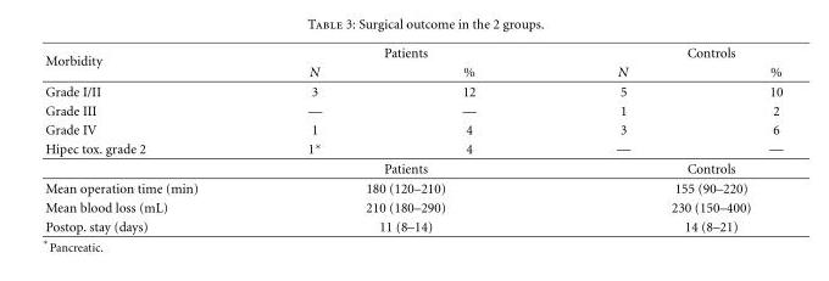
<table><thead><tr><td rowspan="2">Morbidity</td><td colspan="2">Patients</td><td colspan="2">Controls</td></tr><tr><td>N</td><td>%</td><td>N</td><td>%</td></tr></thead><tbody><tr><td>Grade I/II</td><td>3</td><td>12</td><td>5</td><td>10</td></tr><tr><td>Grade III</td><td>—</td><td>—</td><td>1</td><td>2</td></tr><tr><td>Grade IV</td><td>1</td><td>4</td><td>3</td><td>6</td></tr><tr><td rowspan="2">Hipec tox. grade 2</td><td>1∗</td><td>4</td><td>—</td><td>—</td></tr><tr><td colspan="2">Patients</td><td colspan="2">Controls</td></tr><tr><td>Mean operation time (min)</td><td colspan="2">180 (120–210)</td><td colspan="2">155 (90–220)</td></tr><tr><td>Mean blood loss (mL)</td><td colspan="2">210 (180–290)</td><td colspan="2">230 (150–400)</td></tr><tr><td>Postop. stay (days)</td><td colspan="2">11 (8–14)</td><td colspan="2">14 (8–21)</td></tr></tbody></table>